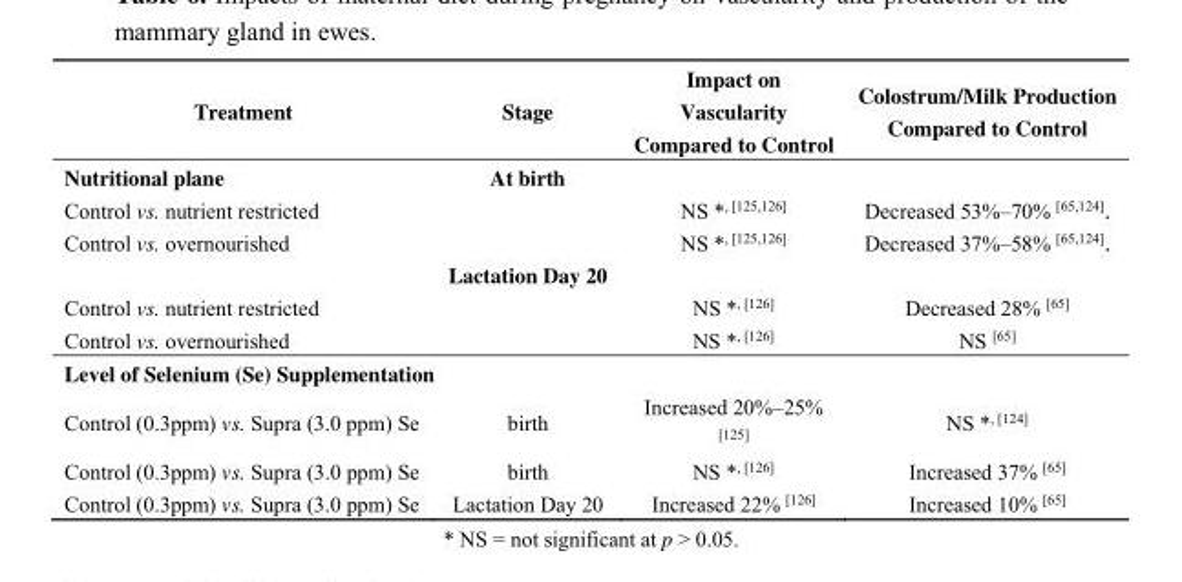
<table><thead><tr><td>Treatment</td><td>Stage</td><td>Impact on Vascularity Compared to Control</td><td>Colostrum/Milk Production Compared to Control</td></tr></thead><tbody><tr><td>Nutritional plane</td><td>At birth</td><td></td><td></td></tr><tr><td>Control vs. nutrient restricted</td><td></td><td>NS *<sup>, [125,126]</sup></td><td>Decreased 53%–70% <sup>[65,124]</sup>.</td></tr><tr><td rowspan="2">Control vs. overnourished</td><td></td><td>NS *<sup>, [125,126]</sup></td><td>Decreased 37%–58% <sup>[65,124]</sup>.</td></tr><tr><td>Lactation Day 20</td><td></td><td></td></tr><tr><td>Control vs. nutrient restricted</td><td></td><td>NS *<sup>, [126]</sup></td><td>Decreased 28% <sup>[65]</sup></td></tr><tr><td>Control vs. overnourished</td><td></td><td>NS *<sup>, [126]</sup></td><td>NS <sup>[65]</sup></td></tr><tr><td colspan="4">Level of Selenium (Se) Supplementation</td></tr><tr><td>Control (0.3ppm) vs. Supra (3.0 ppm) Se</td><td>birth</td><td>Increased 20%–25% <sup>[125]</sup></td><td>NS *<sup>, [124]</sup></td></tr><tr><td>Control (0.3ppm) vs. Supra (3.0 ppm) Se</td><td>birth</td><td>NS *<sup>, [126]</sup></td><td>Increased 37% <sup>[65]</sup></td></tr><tr><td>Control (0.3ppm) vs. Supra (3.0 ppm) Se</td><td>Lactation Day 20</td><td>Increased 22% <sup>[126]</sup></td><td>Increased 10% <sup>[65]</sup></td></tr></tbody></table>